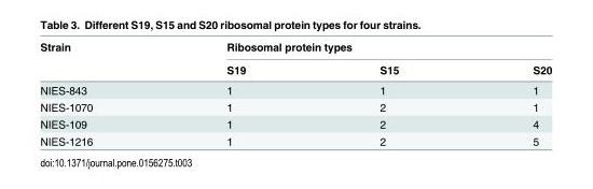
<table><thead><tr><td rowspan="2">Strain</td><td colspan="3">Ribosomal protein types</td></tr><tr><td>S19</td><td>S15</td><td>S20</td></tr></thead><tbody><tr><td>NIES-843</td><td>1</td><td>1</td><td>1</td></tr><tr><td>NIES-1070</td><td>1</td><td>2</td><td>1</td></tr><tr><td>NIES-109</td><td>1</td><td>2</td><td>4</td></tr><tr><td>NIES-1216</td><td>1</td><td>2</td><td>5</td></tr></tbody></table>